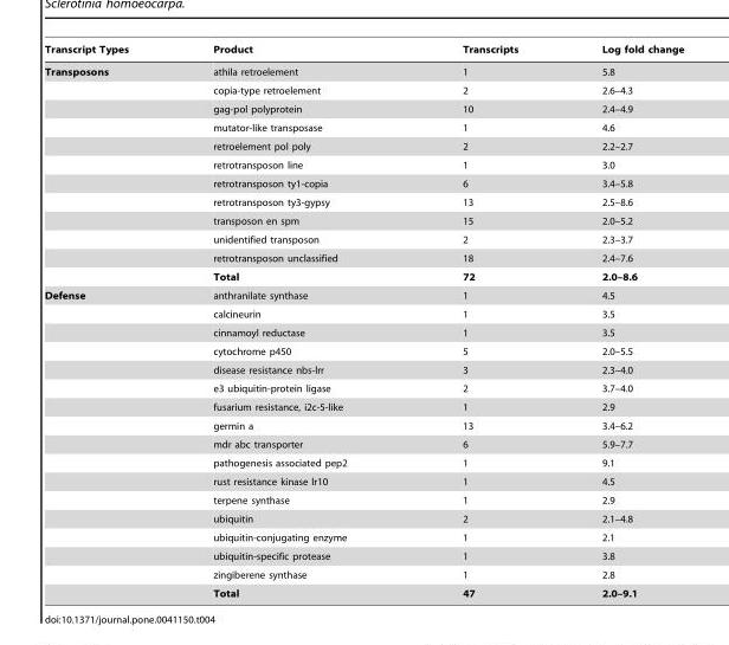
<table><thead><tr><td>Transcript Types</td><td>Product</td><td>Transcripts</td><td>Log fold change</td></tr></thead><tbody><tr><td rowspan="12">Transposons</td><td>athila retroelement</td><td>1</td><td>5.8</td></tr><tr><td>copia-type retroelement</td><td>2</td><td>2.6–4.3</td></tr><tr><td>gag-pol polyprotein</td><td>10</td><td>2.4–4.9</td></tr><tr><td>mutator-like transposase</td><td>1</td><td>4.6</td></tr><tr><td>retroelement pol poly</td><td>2</td><td>2.2–2.7</td></tr><tr><td>retrotransposon line</td><td>1</td><td>3.0</td></tr><tr><td>retrotransposon ty1-copia</td><td>6</td><td>3.4–5.8</td></tr><tr><td>retrotransposon ty3-gypsy</td><td>13</td><td>2.5–8.6</td></tr><tr><td>transposon en spm</td><td>15</td><td>2.0–5.2</td></tr><tr><td>unidentified transposon</td><td>2</td><td>2.3–3.7</td></tr><tr><td>retrotransposon unclassified</td><td>18</td><td>2.4–7.6</td></tr><tr><td>Total</td><td>72</td><td>2.0–8.6</td></tr><tr><td rowspan="17">Defense</td><td>anthranilate synthase</td><td>1</td><td>4.5</td></tr><tr><td>calcineurin</td><td>1</td><td>3.5</td></tr><tr><td>cinnamoyl reductase</td><td>1</td><td>3.5</td></tr><tr><td>cytochrome p450</td><td>5</td><td>2.0–5.5</td></tr><tr><td>disease resistance nbs-lrr</td><td>3</td><td>2.3–4.0</td></tr><tr><td>e3 ubiquitin-protein ligase</td><td>2</td><td>3.7–4.0</td></tr><tr><td>fusarium resistance, i2c-5-like</td><td>1</td><td>2.9</td></tr><tr><td>germin a</td><td>13</td><td>3.4–6.2</td></tr><tr><td>mdr abc transporter</td><td>6</td><td>5.9–7.7</td></tr><tr><td>pathogenesis associated pep2</td><td>1</td><td>9.1</td></tr><tr><td>rust resistance kinase lr10</td><td>1</td><td>4.5</td></tr><tr><td>terpene synthase</td><td>1</td><td>2.9</td></tr><tr><td>ubiquitin</td><td>2</td><td>2.1–4.8</td></tr><tr><td>ubiquitin-conjugating enzyme</td><td>1</td><td>2.1</td></tr><tr><td>ubiquitin-specific protease</td><td>1</td><td>3.8</td></tr><tr><td>zingiberene synthase</td><td>1</td><td>2.8</td></tr><tr><td>Total</td><td>47</td><td>2.0–9.1</td></tr></tbody></table>